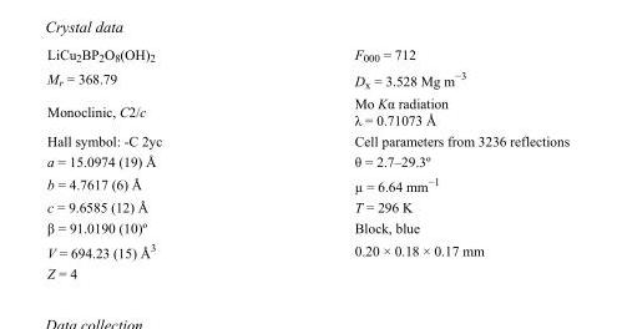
<table><tbody><tr><td>LiCu<sub>2</sub>BP<sub>2</sub>O<sub>8</sub>(OH)<sub>2</sub></td><td>F000 = 712</td></tr><tr><td>M<sub>r</sub> = 368.79</td><td>D<sub>x</sub> = 3.528 Mg m<sup>−3</sup></td></tr><tr><td>Monoclinic, C2/c</td><td>Mo Kα radiation λ = 0.71073 Å</td></tr><tr><td>Hall symbol: -C 2yc</td><td>Cell parameters from 3236 reflections</td></tr><tr><td>a = 15.0974 (19) Å</td><td>θ = 2.7–29.3º</td></tr><tr><td>b = 4.7617 (6) Å</td><td>µ = 6.64 mm<sup>−1</sup></td></tr><tr><td>c = 9.6585 (12) Å</td><td>T = 296 K</td></tr><tr><td>β = 91.0190 (10)º</td><td>Block, blue</td></tr><tr><td>V = 694.23 (15) Å<sup>3</sup></td><td>0.20 × 0.18 × 0.17 mm</td></tr><tr><td>Z = 4</td><td></td></tr></tbody></table>